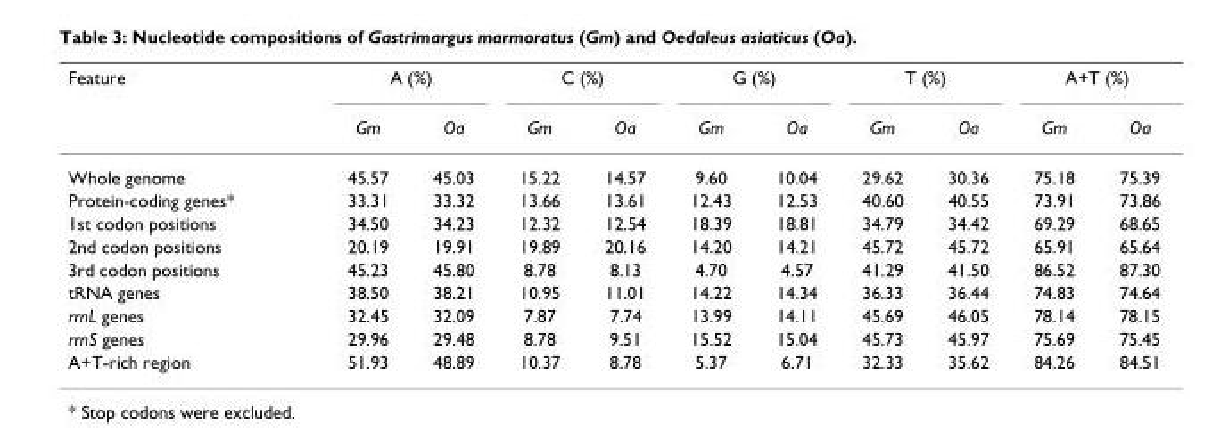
<table><thead><tr><td rowspan="2">Feature</td><td colspan="2">A (%)</td><td colspan="2">C (%)</td><td colspan="2">G (%)</td><td colspan="2">T (%)</td><td colspan="2">A+T (%)</td></tr><tr><td>Gm</td><td>Oa</td><td>Gm</td><td>Oa</td><td>Gm</td><td>Oa</td><td>Gm</td><td>Oa</td><td>Gm</td><td>Oa</td></tr></thead><tbody><tr><td>Whole genome</td><td>45.57</td><td>45.03</td><td>15.22</td><td>14.57</td><td>9.60</td><td>10.04</td><td>29.62</td><td>30.36</td><td>75.18</td><td>75.39</td></tr><tr><td>Protein-coding genes*</td><td>33.31</td><td>33.32</td><td>13.66</td><td>13.61</td><td>12.43</td><td>12.53</td><td>40.60</td><td>40.55</td><td>73.91</td><td>73.86</td></tr><tr><td>1st codon positions</td><td>34.50</td><td>34.23</td><td>12.32</td><td>12.54</td><td>18.39</td><td>18.81</td><td>34.79</td><td>34.42</td><td>69.29</td><td>68.65</td></tr><tr><td>2nd codon positions</td><td>20.19</td><td>19.91</td><td>19.89</td><td>20.16</td><td>14.20</td><td>14.21</td><td>45.72</td><td>45.72</td><td>65.91</td><td>65.64</td></tr><tr><td>3rd codon positions</td><td>45.23</td><td>45.80</td><td>8.78</td><td>8.13</td><td>4.70</td><td>4.57</td><td>41.29</td><td>41.50</td><td>86.52</td><td>87.30</td></tr><tr><td>tRNA genes</td><td>38.50</td><td>38.21</td><td>10.95</td><td>11.01</td><td>14.22</td><td>14.34</td><td>36.33</td><td>36.44</td><td>74.83</td><td>74.64</td></tr><tr><td>rrnL genes</td><td>32.45</td><td>32.09</td><td>7.87</td><td>7.74</td><td>13.99</td><td>14.11</td><td>45.69</td><td>46.05</td><td>78.14</td><td>78.15</td></tr><tr><td>rrnS genes</td><td>29.96</td><td>29.48</td><td>8.78</td><td>9.51</td><td>15.52</td><td>15.04</td><td>45.73</td><td>45.97</td><td>75.69</td><td>75.45</td></tr><tr><td>A+T-rich region</td><td>51.93</td><td>48.89</td><td>10.37</td><td>8.78</td><td>5.37</td><td>6.71</td><td>32.33</td><td>35.62</td><td>84.26</td><td>84.51</td></tr></tbody></table>